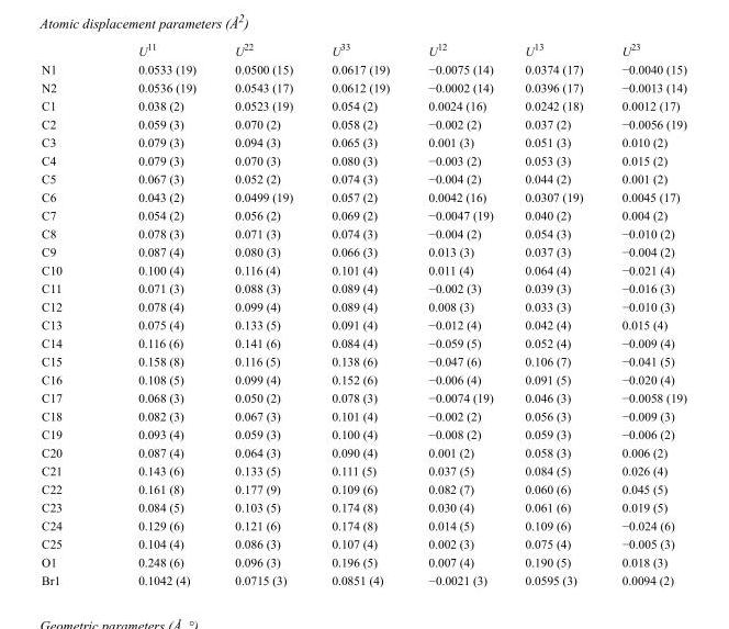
<table><thead><tr><td></td><td>U<sup>11</sup></td><td>U<sup>22</sup></td><td>U<sup>33</sup></td><td>U<sup>12</sup></td><td>U<sup>13</sup></td><td>U<sup>23</sup></td></tr></thead><tbody><tr><td>N1</td><td>0.0533 (19)</td><td>0.0500 (15)</td><td>0.0617 (19)</td><td>−0.0075 (14)</td><td>0.0374 (17)</td><td>−0.0040 (15)</td></tr><tr><td>N2</td><td>0.0536 (19)</td><td>0.0543 (17)</td><td>0.0612 (19)</td><td>−0.0002 (14)</td><td>0.0396 (17)</td><td>−0.0013 (14)</td></tr><tr><td>C1</td><td>0.038 (2)</td><td>0.0523 (19)</td><td>0.054 (2)</td><td>0.0024 (16)</td><td>0.0242 (18)</td><td>0.0012 (17)</td></tr><tr><td>C2</td><td>0.059 (3)</td><td>0.070 (2)</td><td>0.058 (2)</td><td>−0.002 (2)</td><td>0.037 (2)</td><td>−0.0056 (19)</td></tr><tr><td>C3</td><td>0.079 (3)</td><td>0.094 (3)</td><td>0.065 (3)</td><td>0.001 (3)</td><td>0.051 (3)</td><td>0.010 (2)</td></tr><tr><td>C4</td><td>0.079 (3)</td><td>0.070 (3)</td><td>0.080 (3)</td><td>−0.003 (2)</td><td>0.053 (3)</td><td>0.015 (2)</td></tr><tr><td>C5</td><td>0.067 (3)</td><td>0.052 (2)</td><td>0.074 (3)</td><td>−0.004 (2)</td><td>0.044 (2)</td><td>0.001 (2)</td></tr><tr><td>C6</td><td>0.043 (2)</td><td>0.0499 (19)</td><td>0.057 (2)</td><td>0.0042 (16)</td><td>0.0307 (19)</td><td>0.0045 (17)</td></tr><tr><td>C7</td><td>0.054 (2)</td><td>0.056 (2)</td><td>0.069 (2)</td><td>−0.0047 (19)</td><td>0.040 (2)</td><td>0.004 (2)</td></tr><tr><td>C8</td><td>0.078 (3)</td><td>0.071 (3)</td><td>0.074 (3)</td><td>−0.004 (2)</td><td>0.054 (3)</td><td>−0.010 (2)</td></tr><tr><td>C9</td><td>0.087 (4)</td><td>0.080 (3)</td><td>0.066 (3)</td><td>0.013 (3)</td><td>0.037 (3)</td><td>−0.004 (2)</td></tr><tr><td>C10</td><td>0.100 (4)</td><td>0.116 (4)</td><td>0.101 (4)</td><td>0.011 (4)</td><td>0.064 (4)</td><td>−0.021 (4)</td></tr><tr><td>C11</td><td>0.071 (3)</td><td>0.088 (3)</td><td>0.089 (4)</td><td>−0.002 (3)</td><td>0.039 (3)</td><td>−0.016 (3)</td></tr><tr><td>C12</td><td>0.078 (4)</td><td>0.099 (4)</td><td>0.089 (4)</td><td>0.008 (3)</td><td>0.033 (3)</td><td>−0.010 (3)</td></tr><tr><td>C13</td><td>0.075 (4)</td><td>0.133 (5)</td><td>0.091 (4)</td><td>−0.012 (4)</td><td>0.042 (4)</td><td>0.015 (4)</td></tr><tr><td>C14</td><td>0.116 (6)</td><td>0.141 (6)</td><td>0.084 (4)</td><td>−0.059 (5)</td><td>0.052 (4)</td><td>−0.009 (4)</td></tr><tr><td>C15</td><td>0.158 (8)</td><td>0.116 (5)</td><td>0.138 (6)</td><td>−0.047 (6)</td><td>0.106 (7)</td><td>−0.041 (5)</td></tr><tr><td>C16</td><td>0.108 (5)</td><td>0.099 (4)</td><td>0.152 (6)</td><td>−0.006 (4)</td><td>0.091 (5)</td><td>−0.020 (4)</td></tr><tr><td>C17</td><td>0.068 (3)</td><td>0.050 (2)</td><td>0.078 (3)</td><td>−0.0074 (19)</td><td>0.046 (3)</td><td>−0.0058 (19)</td></tr><tr><td>C18</td><td>0.082 (3)</td><td>0.067 (3)</td><td>0.101 (4)</td><td>−0.002 (2)</td><td>0.056 (3)</td><td>−0.009 (3)</td></tr><tr><td>C19</td><td>0.093 (4)</td><td>0.059 (3)</td><td>0.100 (4)</td><td>−0.008 (2)</td><td>0.059 (3)</td><td>−0.006 (2)</td></tr><tr><td>C20</td><td>0.087 (4)</td><td>0.064 (3)</td><td>0.090 (4)</td><td>0.001 (2)</td><td>0.058 (3)</td><td>0.006 (2)</td></tr><tr><td>C21</td><td>0.143 (6)</td><td>0.133 (5)</td><td>0.111 (5)</td><td>0.037 (5)</td><td>0.084 (5)</td><td>0.026 (4)</td></tr><tr><td>C22</td><td>0.161 (8)</td><td>0.177 (9)</td><td>0.109 (6)</td><td>0.082 (7)</td><td>0.060 (6)</td><td>0.045 (5)</td></tr><tr><td>C23</td><td>0.084 (5)</td><td>0.103 (5)</td><td>0.174 (8)</td><td>0.030 (4)</td><td>0.061 (6)</td><td>0.019 (5)</td></tr><tr><td>C24</td><td>0.129 (6)</td><td>0.121 (6)</td><td>0.174 (8)</td><td>0.014 (5)</td><td>0.109 (6)</td><td>−0.024 (6)</td></tr><tr><td>C25</td><td>0.104 (4)</td><td>0.086 (3)</td><td>0.107 (4)</td><td>0.002 (3)</td><td>0.075 (4)</td><td>−0.005 (3)</td></tr><tr><td>O1</td><td>0.248 (6)</td><td>0.096 (3)</td><td>0.196 (5)</td><td>0.007 (4)</td><td>0.190 (5)</td><td>0.018 (3)</td></tr><tr><td>Br1</td><td>0.1042 (4)</td><td>0.0715 (3)</td><td>0.0851 (4)</td><td>−0.0021 (3)</td><td>0.0595 (3)</td><td>0.0094 (2)</td></tr></tbody></table>